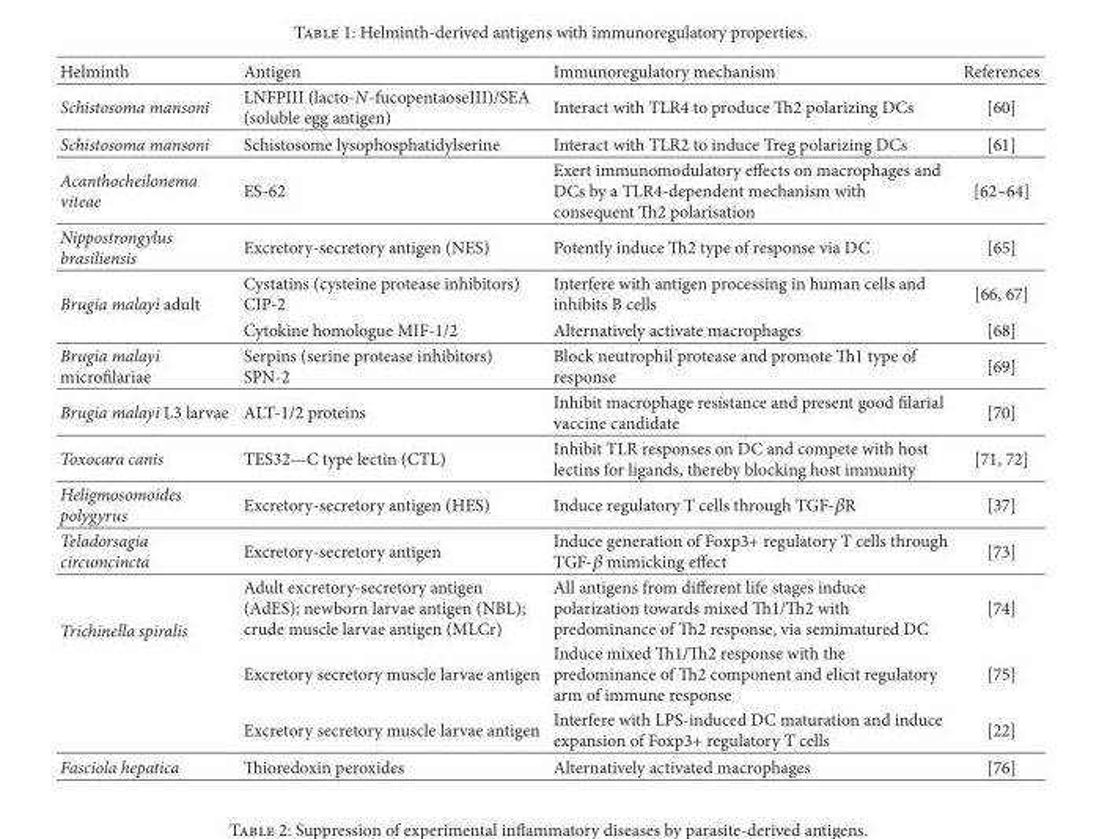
<table><thead><tr><td>Helminth</td><td>Antigen</td><td>Immunoregulatory mechanism</td><td>References</td></tr></thead><tbody><tr><td>Schistosoma mansoni</td><td>LNFPIII (lacto-N-fucopentaoseIII)/SEA (soluble egg antigen)</td><td>Interact with TLR4 to produce 2 polarizing DCs</td><td>[60]</td></tr><tr><td>Schistosoma mansoni</td><td>Schistosome lysophosphatidylserine</td><td>Interact with TLR2 to induce Treg polarizing DCs</td><td>[61]</td></tr><tr><td>Acanthocheilonema viteae</td><td>ES-62</td><td>Exert immunomodulatory effects on macrophages and DCs by a TLR4-dependent mechanism with consequent 2 polarisation</td><td>[62–64]</td></tr><tr><td>Nippostrongylus brasiliensis</td><td>Excretory-secretory antigen (NES)</td><td>Potently induce 2 type of response via DC</td><td>[65]</td></tr><tr><td rowspan="2">Brugia malayi adult</td><td>Cystatins (cysteine protease inhibitors) CIP-2</td><td>Interfere with antigen processing in human cells and inhibits B cells</td><td>[66, 67]</td></tr><tr><td>Cytokine homologue MIF-1/2</td><td>Alternatively activate macrophages</td><td>[68]</td></tr><tr><td>Brugia malayi micro�lariae</td><td>Serpins (serine protease inhibitors) SPN-2</td><td>Block neutrophil protease and promote 1 type of response</td><td>[69]</td></tr><tr><td>Brugia malayi L3 larvae</td><td>ALT-1/2 proteins</td><td>Inhibit macrophage resistance and present good �larial vaccine candidate</td><td>[70]</td></tr><tr><td>Toxocara canis</td><td>TES32—C type lectin (CTL)</td><td>Inhibit TLR responses on DC and compete with host lectins for ligands, thereby blocking host immunity</td><td>[71, 72]</td></tr><tr><td>Heligmosomoides polygyrus</td><td>Excretory-secretory antigen (HES)</td><td>Induce regulatory T cells through TGF-𝛽𝛽R</td><td>[37]</td></tr><tr><td>Teladorsagia circumcincta</td><td>Excretory-secretory antigen</td><td>Induce generation of Foxp3+ regulatory T cells through TGF-𝛽𝛽 mimicking effect</td><td>[73]</td></tr><tr><td rowspan="3">Trichinella spiralis</td><td>Adult excretory-secretory antigen (AdES); newborn larvae antigen (NBL); crude muscle larvae antigen (MLCr)</td><td>All antigens from different life stages induce polarization towards mixed 1/2 with predominance of 2 response, via semimatured DC</td><td>[74]</td></tr><tr><td>Excretory secretory muscle larvae antigen</td><td>Induce mixed 1/2 response with the predominance of 2 component and elicit regulatory arm of immune response</td><td>[75]</td></tr><tr><td>Excretory secretory muscle larvae antigen</td><td>Interfere with LPS-induced DC maturation and induce expansion of Foxp3+ regulatory T cells</td><td>[22]</td></tr><tr><td>Fasciola hepatica</td><td>ioredoxin peroxides</td><td>Alternatively activated macrophages</td><td>[76]</td></tr></tbody></table>